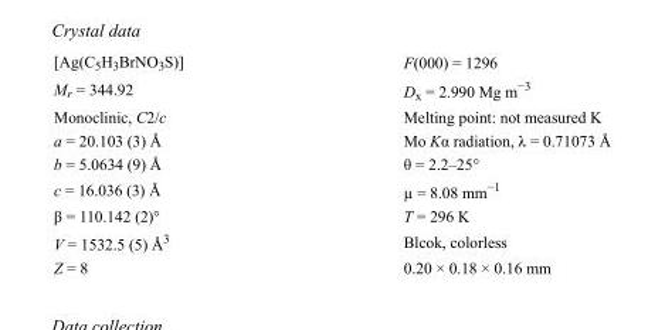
<table><tbody><tr><td>[Ag(C<sub>5</sub>H<sub>3</sub>BrNO<sub>3</sub>S)]</td><td>F(000) = 1296</td></tr><tr><td>M<sub>r</sub> = 344.92</td><td>D<sub>x</sub> = 2.990 Mg m<sup>−3</sup></td></tr><tr><td>Monoclinic, C2/c</td><td>Melting point: not measured K</td></tr><tr><td>a = 20.103 (3) Å</td><td>Mo Kα radiation, λ = 0.71073 Å</td></tr><tr><td>b = 5.0634 (9) Å</td><td>θ = 2.2–25°</td></tr><tr><td>c = 16.036 (3) Å</td><td>µ = 8.08 mm−1</td></tr><tr><td>β = 110.142 (2)°</td><td>T = 296 K</td></tr><tr><td>V = 1532.5 (5) Å<sup>3</sup></td><td>Blcok, colorless</td></tr><tr><td>Z = 8</td><td>0.20 × 0.18 × 0.16 mm</td></tr></tbody></table>